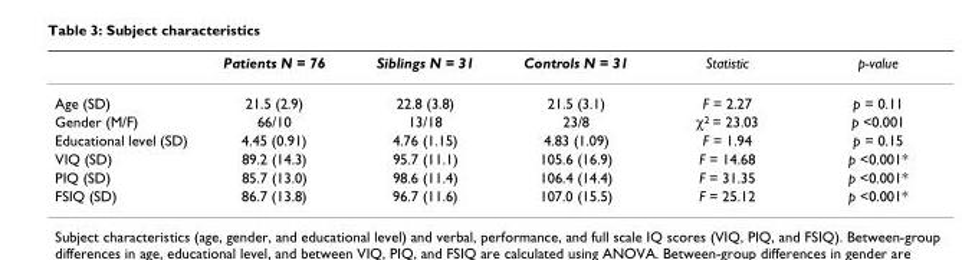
<table><thead><tr><td></td><td>Patients N = 76</td><td>Siblings N = 31</td><td>Controls N = 31</td><td>Statistic</td><td>p-value</td></tr></thead><tbody><tr><td>Age (SD)</td><td>21.5 (2.9)</td><td>22.8 (3.8)</td><td>21.5 (3.1)</td><td>F = 2.27</td><td>p = 0.11</td></tr><tr><td>Gender (M/F)</td><td>66/10</td><td>13/18</td><td>23/8</td><td>χ<sup>2</sup> = 23.03</td><td>p &lt;0.001</td></tr><tr><td>Educational level (SD)</td><td>4.45 (0.91)</td><td>4.76 (1.15)</td><td>4.83 (1.09)</td><td>F = 1.94</td><td>p = 0.15</td></tr><tr><td>VIQ (SD)</td><td>89.2 (14.3)</td><td>95.7 (11.1)</td><td>105.6 (16.9)</td><td>F = 14.68</td><td>p &lt;0.001*</td></tr><tr><td>PIQ (SD)</td><td>85.7 (13.0)</td><td>98.6 (11.4)</td><td>106.4 (14.4)</td><td>F = 31.35</td><td>p &lt;0.001*</td></tr><tr><td>FSIQ (SD)</td><td>86.7 (13.8)</td><td>96.7 (11.6)</td><td>107.0 (15.5)</td><td>F = 25.12</td><td>p &lt;0.001*</td></tr></tbody></table>